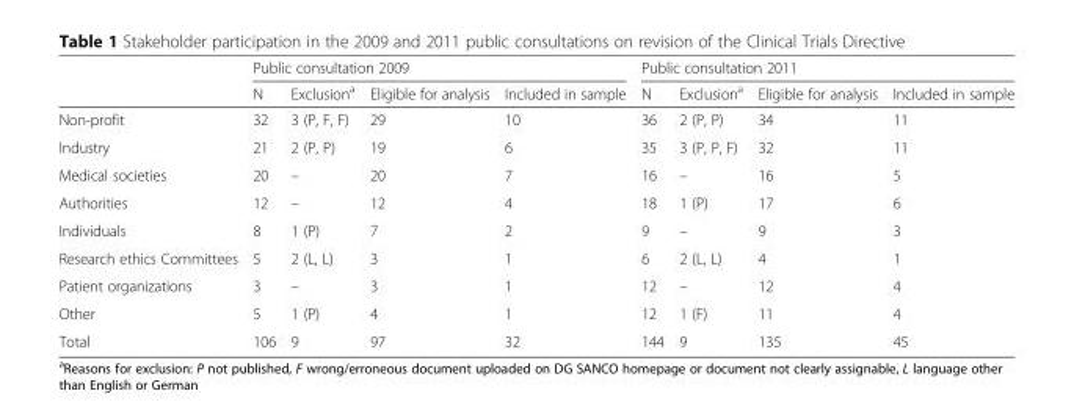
<table><thead><tr><td rowspan="2"></td><td colspan="4">Public consultation 2009</td><td colspan="4">Public consultation 2011</td></tr><tr><td>N</td><td>Exclusion<sup>a</sup></td><td>Eligible for analysis</td><td>Included in sample</td><td>N</td><td>Exclusion<sup>a</sup></td><td>Eligible for analysis</td><td>Included in sample</td></tr></thead><tbody><tr><td>Non-profit</td><td>32</td><td>3 (P, F, F)</td><td>29</td><td>10</td><td>36</td><td>2 (P, P)</td><td>34</td><td>11</td></tr><tr><td>Industry</td><td>21</td><td>2 (P, P)</td><td>19</td><td>6</td><td>35</td><td>3 (P, P, F)</td><td>32</td><td>11</td></tr><tr><td>Medical societies</td><td>20</td><td>–</td><td>20</td><td>7</td><td>16</td><td>–</td><td>16</td><td>5</td></tr><tr><td>Authorities</td><td>12</td><td>–</td><td>12</td><td>4</td><td>18</td><td>1 (P)</td><td>17</td><td>6</td></tr><tr><td>Individuals</td><td>8</td><td>1 (P)</td><td>7</td><td>2</td><td>9</td><td>–</td><td>9</td><td>3</td></tr><tr><td>Research ethics Committees</td><td>5</td><td>2 (L, L)</td><td>3</td><td>1</td><td>6</td><td>2 (L, L)</td><td>4</td><td>1</td></tr><tr><td>Patient organizations</td><td>3</td><td>–</td><td>3</td><td>1</td><td>12</td><td>–</td><td>12</td><td>4</td></tr><tr><td>Other</td><td>5</td><td>1 (P)</td><td>4</td><td>1</td><td>12</td><td>1 (F)</td><td>11</td><td>4</td></tr><tr><td>Total</td><td>106</td><td>9</td><td>97</td><td>32</td><td>144</td><td>9</td><td>135</td><td>45</td></tr></tbody></table>